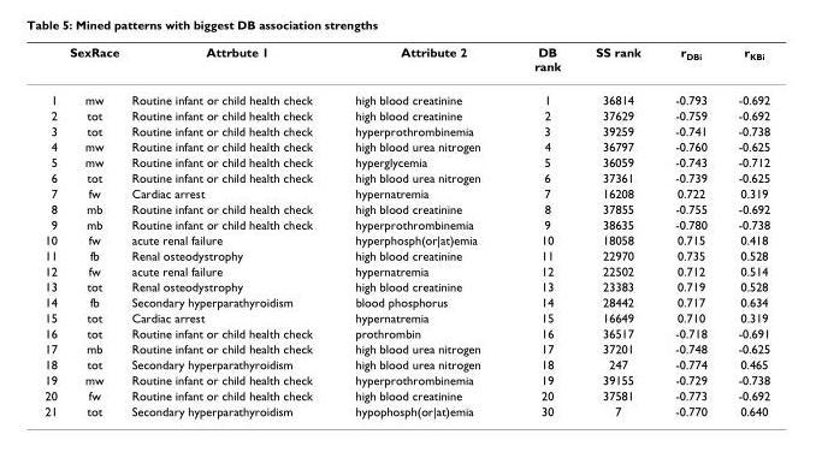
<table><thead><tr><td></td><td>SexRace</td><td>Attrbute 1</td><td>Attribute 2</td><td>DB rank</td><td>SS rank</td><td>r<sub>DBi</sub></td><td>r<sub>KBi</sub></td></tr></thead><tbody><tr><td>1</td><td>mw</td><td>Routine infant or child health check</td><td>high blood creatinine</td><td>1</td><td>36814</td><td>-0.793</td><td>-0.692</td></tr><tr><td>2</td><td>tot</td><td>Routine infant or child health check</td><td>high blood creatinine</td><td>2</td><td>37629</td><td>-0.759</td><td>-0.692</td></tr><tr><td>3</td><td>tot</td><td>Routine infant or child health check</td><td>hyperprothrombinemia</td><td>3</td><td>39259</td><td>-0.741</td><td>-0.738</td></tr><tr><td>4</td><td>mw</td><td>Routine infant or child health check</td><td>high blood urea nitrogen</td><td>4</td><td>36797</td><td>-0.760</td><td>-0.625</td></tr><tr><td>5</td><td>mw</td><td>Routine infant or child health check</td><td>hyperglycemia</td><td>5</td><td>36059</td><td>-0.743</td><td>-0.712</td></tr><tr><td>6</td><td>tot</td><td>Routine infant or child health check</td><td>high blood urea nitrogen</td><td>6</td><td>37361</td><td>-0.739</td><td>-0.625</td></tr><tr><td>7</td><td>fw</td><td>Cardiac arrest</td><td>hypernatremia</td><td>7</td><td>16208</td><td>0.722</td><td>0.319</td></tr><tr><td>8</td><td>mb</td><td>Routine infant or child health check</td><td>high blood creatinine</td><td>8</td><td>37855</td><td>-0.755</td><td>-0.692</td></tr><tr><td>9</td><td>mb</td><td>Routine infant or child health check</td><td>hyperprothrombinemia</td><td>9</td><td>38635</td><td>-0.780</td><td>-0.738</td></tr><tr><td>10</td><td>fw</td><td>acute renal failure</td><td>hyperphosph(or|at)emia</td><td>10</td><td>18058</td><td>0.715</td><td>0.418</td></tr><tr><td>11</td><td>fb</td><td>Renal osteodystrophy</td><td>high blood creatinine</td><td>11</td><td>22970</td><td>0.735</td><td>0.528</td></tr><tr><td>12</td><td>fw</td><td>acute renal failure</td><td>hypernatremia</td><td>12</td><td>22502</td><td>0.712</td><td>0.514</td></tr><tr><td>13</td><td>tot</td><td>Renal osteodystrophy</td><td>high blood creatinine</td><td>13</td><td>23383</td><td>0.719</td><td>0.528</td></tr><tr><td>14</td><td>fb</td><td>Secondary hyperparathyroidism</td><td>blood phosphorus</td><td>14</td><td>28442</td><td>0.717</td><td>0.634</td></tr><tr><td>15</td><td>tot</td><td>Cardiac arrest</td><td>hypernatremia</td><td>15</td><td>16649</td><td>0.710</td><td>0.319</td></tr><tr><td>16</td><td>tot</td><td>Routine infant or child health check</td><td>prothrombin</td><td>16</td><td>36517</td><td>-0.718</td><td>-0.691</td></tr><tr><td>17</td><td>mb</td><td>Routine infant or child health check</td><td>high blood urea nitrogen</td><td>17</td><td>37201</td><td>-0.748</td><td>-0.625</td></tr><tr><td>18</td><td>tot</td><td>Secondary hyperparathyroidism</td><td>high blood urea nitrogen</td><td>18</td><td>247</td><td>-0.774</td><td>0.465</td></tr><tr><td>19</td><td>mw</td><td>Routine infant or child health check</td><td>hyperprothrombinemia</td><td>19</td><td>39155</td><td>-0.729</td><td>-0.738</td></tr><tr><td>20</td><td>fw</td><td>Routine infant or child health check</td><td>high blood creatinine</td><td>20</td><td>37581</td><td>-0.773</td><td>-0.692</td></tr><tr><td>21</td><td>tot</td><td>Secondary hyperparathyroidism</td><td>hypophosph(or|at)emia</td><td>30</td><td>7</td><td>-0.770</td><td>0.640</td></tr></tbody></table>